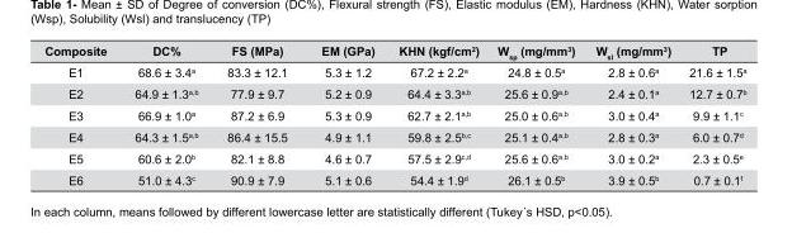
<table><thead><tr><td>Composite</td><td>DC%</td><td>FS (MPa)</td><td>EM (GPa)</td><td>KHN (kgf/cm<sup>2</sup>)</td><td>W<sub>sp</sub> (mg/mm<sup>3</sup>)</td><td>W<sub>sl</sub> (mg/mm<sup>3</sup>)</td><td>TP</td></tr></thead><tbody><tr><td>E1</td><td>68.6 ± 3.4<sup>a</sup></td><td>83.3 ± 12.1</td><td>5.3 ± 1.2</td><td>67.2 ± 2.2<sup>a</sup></td><td>24.8 ± 0.5<sup>a</sup></td><td>2.8 ± 0.6<sup>a</sup></td><td>21.6 ± 1.5<sup>a</sup></td></tr><tr><td>E2</td><td>64.9 ± 1.3a,b</td><td>77.9 ± 9.7</td><td>5.2 ± 0.9</td><td>64.4 ± 3.3a,b</td><td>25.6 ± 0.9a,b</td><td>2.4 ± 0.1<sup>a</sup></td><td>12.7 ± 0.7<sup>b</sup></td></tr><tr><td>E3</td><td>66.9 ± 1.0<sup>a</sup></td><td>87.2 ± 6.9</td><td>5.3 ± 0.9</td><td>62.7 ± 2.1<sup>a,b</sup></td><td>25.0 ± 0.6a,b</td><td>3.0 ± 0.4<sup>a</sup></td><td>9.9 ± 1.1<sup>c</sup></td></tr><tr><td>E4</td><td>64.3 ± 1.5a,b</td><td>86.4 ± 15.5</td><td>4.9 ± 1.1</td><td>59.8 ± 2.5b,c</td><td>25.1 ± 0.4a,b</td><td>2.8 ± 0.3<sup>a</sup></td><td>6.0 ± 0.7<sup>d</sup></td></tr><tr><td>E5</td><td>60.6 ± 2.0<sup>b</sup></td><td>82.1 ± 8.8</td><td>4.6 ± 0.7</td><td>57.5 ± 2.9c,d</td><td>25.6 ± 0.6a,b</td><td>3.0 ± 0.2<sup>a</sup></td><td>2.3 ± 0.5<sup>e</sup></td></tr><tr><td>E6</td><td>51.0 ± 4.3<sup>c</sup></td><td>90.9 ± 7.9</td><td>5.1 ± 0.6</td><td>54.4 ± 1.9<sup>d</sup></td><td>26.1 ± 0.5<sup>b</sup></td><td>3.9 ± 0.5<sup>b</sup></td><td>0.7 ± 0.1<sup>f</sup></td></tr></tbody></table>